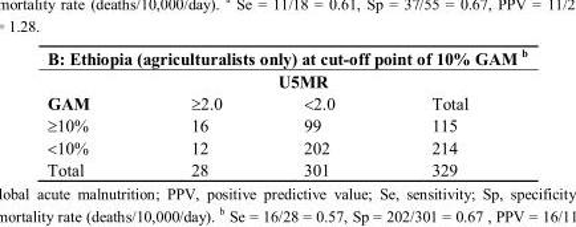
<table><thead><tr><td colspan="4">B: Ethiopia (agriculturalists only) at cut-off point of 10% GAM <sup>b</sup></td></tr><tr><td rowspan="2">GAM</td><td colspan="2">U5MR</td><td rowspan="2">Total</td></tr><tr><td>≥2.0</td><td>&lt;2.0</td></tr></thead><tbody><tr><td>≥10%</td><td>16</td><td>99</td><td>115</td></tr><tr><td>&lt;10%</td><td>12</td><td>202</td><td>214</td></tr><tr><td>Total</td><td>28</td><td>301</td><td>329</td></tr></tbody></table>